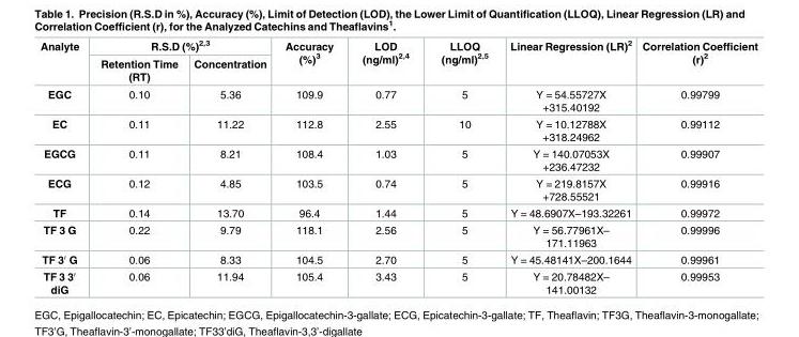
<table><thead><tr><td rowspan="2">Analyte</td><td colspan="2">R.S.D (%)<sup>2,3</sup></td><td rowspan="2">Accuracy (%)<sup>3</sup></td><td rowspan="2">LOD (ng/ml)<sup>2,4</sup></td><td rowspan="2">LLOQ (ng/ml)<sup>2,5</sup></td><td rowspan="2">Linear Regression (LR)<sup>2</sup></td><td rowspan="2">Correlation Coefficient (r)<sup>2</sup></td></tr><tr><td>Retention Time (RT)</td><td>Concentration</td></tr></thead><tbody><tr><td>EGC</td><td>0.10</td><td>5.36</td><td>109.9</td><td>0.77</td><td>5</td><td>Y = 54.55727X +315.40192</td><td>0.99799</td></tr><tr><td>EC</td><td>0.11</td><td>11.22</td><td>112.8</td><td>2.55</td><td>10</td><td>Y = 10.12788X +318.24962</td><td>0.99112</td></tr><tr><td>EGCG</td><td>0.11</td><td>8.21</td><td>108.4</td><td>1.03</td><td>5</td><td>Y = 140.07053X +236.47232</td><td>0.99907</td></tr><tr><td>ECG</td><td>0.12</td><td>4.85</td><td>103.5</td><td>0.74</td><td>5</td><td>Y = 219.8157X +728.55521</td><td>0.99916</td></tr><tr><td>TF</td><td>0.14</td><td>13.70</td><td>96.4</td><td>1.44</td><td>5</td><td>Y = 48.6907X–193.32261</td><td>0.99972</td></tr><tr><td>TF 3 G</td><td>0.22</td><td>9.79</td><td>118.1</td><td>2.56</td><td>5</td><td>Y = 56.77961X– 171.11963</td><td>0.99996</td></tr><tr><td>TF 3′ G</td><td>0.06</td><td>8.33</td><td>104.5</td><td>2.70</td><td>5</td><td>Y = 45.48141X–200.1644</td><td>0.99961</td></tr><tr><td>TF 3 3′ diG</td><td>0.06</td><td>11.94</td><td>105.4</td><td>3.43</td><td>5</td><td>Y = 20.78482X– 141.00132</td><td>0.99953</td></tr></tbody></table>